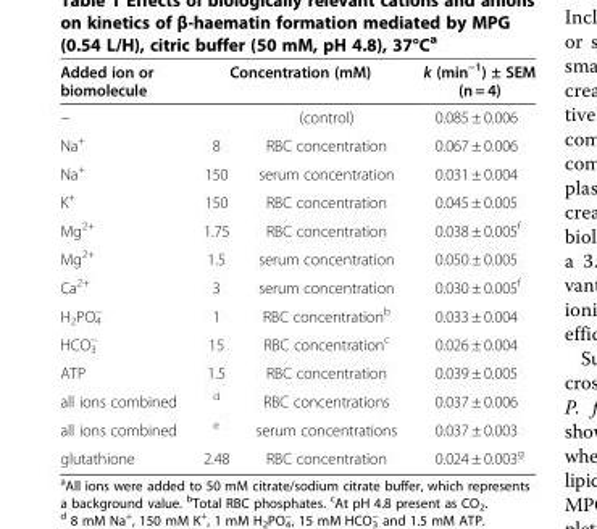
<table><thead><tr><td rowspan="2">Added ion or biomolecule −</td><td colspan="2">Concentration (mM)</td><td rowspan="2">k (min<sup>−1</sup>) ± SEM (n = 4) 0.085 ± 0.006</td></tr><tr><td></td><td>(control)</td></tr></thead><tbody><tr><td>Na<sup>+</sup></td><td>8</td><td>RBC concentration</td><td>0.067 ± 0.006</td></tr><tr><td>Na<sup>+</sup></td><td>150</td><td>serum concentration</td><td>0.031 ± 0.004</td></tr><tr><td>K<sup>+</sup></td><td>150</td><td>RBC concentration</td><td>0.045 ± 0.005</td></tr><tr><td>Mg<sup>2+</sup></td><td>1.75</td><td>RBC concentration</td><td>0.038 ± 0.005<sup>f</sup></td></tr><tr><td>Mg<sup>2+</sup></td><td>1.5</td><td>serum concentration</td><td>0.050 ± 0.005</td></tr><tr><td>Ca<sup>2+</sup></td><td>3</td><td>serum concentration</td><td>0.030 ± 0.005<sup>f</sup></td></tr><tr><td>H<sub>2</sub>PO<sub>4</sub> <sup>−</sup></td><td>1</td><td>RBC concentration<sup>b</sup></td><td>0.033 ± 0.004</td></tr><tr><td>HCO<sub>3</sub> <sup>−</sup></td><td>15</td><td>RBC concentration<sup>c</sup></td><td>0.026 ± 0.004</td></tr><tr><td>ATP</td><td>1.5</td><td>RBC concentration</td><td>0.039 ± 0.005</td></tr><tr><td>all ions combined</td><td><sup>d</sup></td><td>RBC concentrations</td><td>0.037 ± 0.006</td></tr><tr><td>all ions combined</td><td><sup>e</sup></td><td>serum concentrations</td><td>0.037 ± 0.003</td></tr><tr><td>glutathione</td><td>2.48</td><td>RBC concentration</td><td>0.024 ± 0.003<sup>g</sup></td></tr></tbody></table>